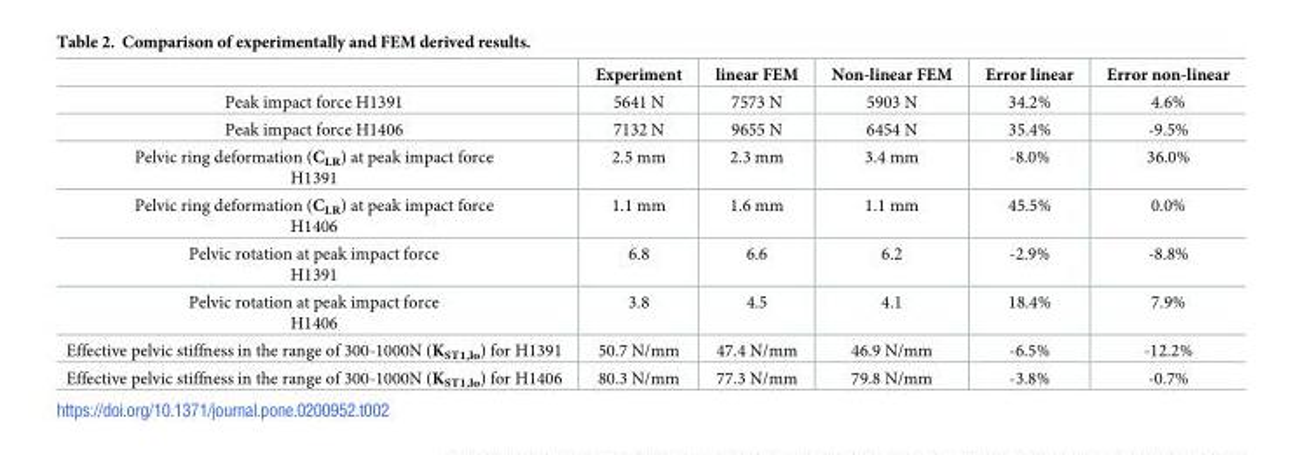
<table><thead><tr><td></td><td>Experiment</td><td>linear FEM</td><td>Non-linear FEM</td><td>Error linear</td><td>Error non-linear</td></tr></thead><tbody><tr><td>Peak impact force H1391</td><td>5641 N</td><td>7573 N</td><td>5903 N</td><td>34.2%</td><td>4.6%</td></tr><tr><td>Peak impact force H1406</td><td>7132 N</td><td>9655 N</td><td>6454 N</td><td>35.4%</td><td>-9.5%</td></tr><tr><td>Pelvic ring deformation (C<sub>LR</sub>) at peak impact force H1391</td><td>2.5 mm</td><td>2.3 mm</td><td>3.4 mm</td><td>-8.0%</td><td>36.0%</td></tr><tr><td>Pelvic ring deformation (C<sub>LR</sub>) at peak impact force H1406</td><td>1.1 mm</td><td>1.6 mm</td><td>1.1 mm</td><td>45.5%</td><td>0.0%</td></tr><tr><td>Pelvic rotation at peak impact force H1391</td><td>6.8</td><td>6.6</td><td>6.2</td><td>-2.9%</td><td>-8.8%</td></tr><tr><td>Pelvic rotation at peak impact force H1406</td><td>3.8</td><td>4.5</td><td>4.1</td><td>18.4%</td><td>7.9%</td></tr><tr><td>Effective pelvic stiffness in the range of 300-1000N (K<sub>ST1,lo</sub>) for H1391</td><td>50.7 N/mm</td><td>47.4 N/mm</td><td>46.9 N/mm</td><td>-6.5%</td><td>-12.2%</td></tr><tr><td>Effective pelvic stiffness in the range of 300-1000N (K<sub>ST1,lo</sub>) for H1406</td><td>80.3 N/mm</td><td>77.3 N/mm</td><td>79.8 N/mm</td><td>-3.8%</td><td>-0.7%</td></tr></tbody></table>